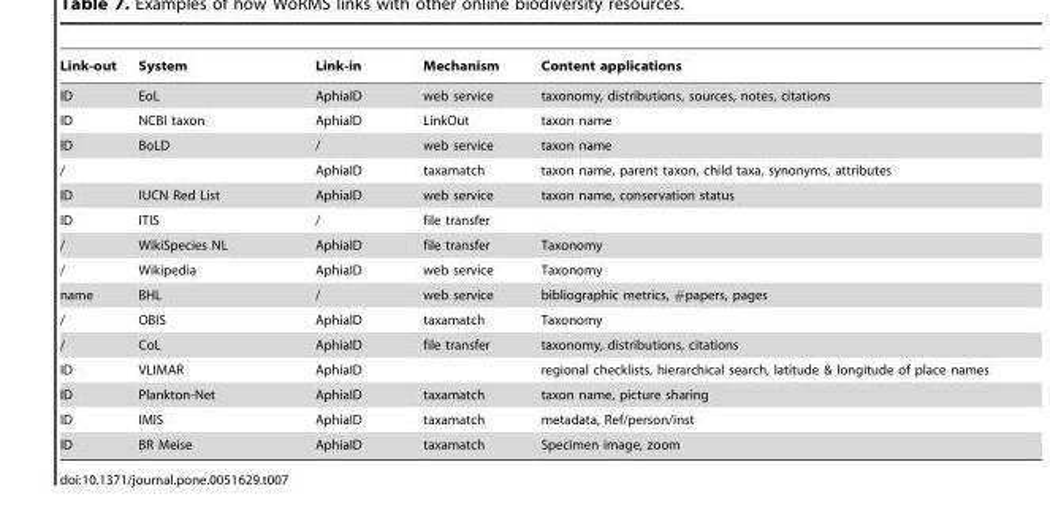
<table><thead><tr><td>Link-out</td><td>System</td><td>Link-in</td><td>Mechanism</td><td>Content applications</td></tr></thead><tbody><tr><td>ID</td><td>EoL</td><td>AphiaID</td><td>web service</td><td>taxonomy, distributions, sources, notes, citations</td></tr><tr><td>ID</td><td>NCBI taxon</td><td>AphiaID</td><td>LinkOut</td><td>taxon name</td></tr><tr><td>ID</td><td>BoLD</td><td>/</td><td>web service</td><td>taxon name</td></tr><tr><td>/</td><td></td><td>AphiaID</td><td>taxamatch</td><td>taxon name, parent taxon, child taxa, synonyms, attributes</td></tr><tr><td>ID</td><td>IUCN Red List</td><td>AphiaID</td><td>web service</td><td>taxon name, conservation status</td></tr><tr><td>ID</td><td>ITIS</td><td>/</td><td>file transfer</td><td></td></tr><tr><td>/</td><td>WikiSpecies NL</td><td>AphiaID</td><td>file transfer</td><td>Taxonomy</td></tr><tr><td>/</td><td>Wikipedia</td><td>AphiaID</td><td>web service</td><td>Taxonomy</td></tr><tr><td>name</td><td>BHL</td><td>/</td><td>web service</td><td>bibliographic metrics, #papers, pages</td></tr><tr><td>/</td><td>OBIS</td><td>AphiaID</td><td>taxamatch</td><td>Taxonomy</td></tr><tr><td>/</td><td>CoL</td><td>AphiaID</td><td>file transfer</td><td>taxonomy, distributions, citations</td></tr><tr><td>ID</td><td>VLIMAR</td><td>AphiaID</td><td></td><td>regional checklists, hierarchical search, latitude &amp; longitude of place names</td></tr><tr><td>ID</td><td>Plankton-Net</td><td>AphiaID</td><td>taxamatch</td><td>taxon name, picture sharing</td></tr><tr><td>ID</td><td>IMIS</td><td>AphiaID</td><td>taxamatch</td><td>metadata, Ref/person/inst</td></tr><tr><td>ID</td><td>BR Meise</td><td>AphiaID</td><td>taxamatch</td><td>Specimen image, zoom</td></tr></tbody></table>